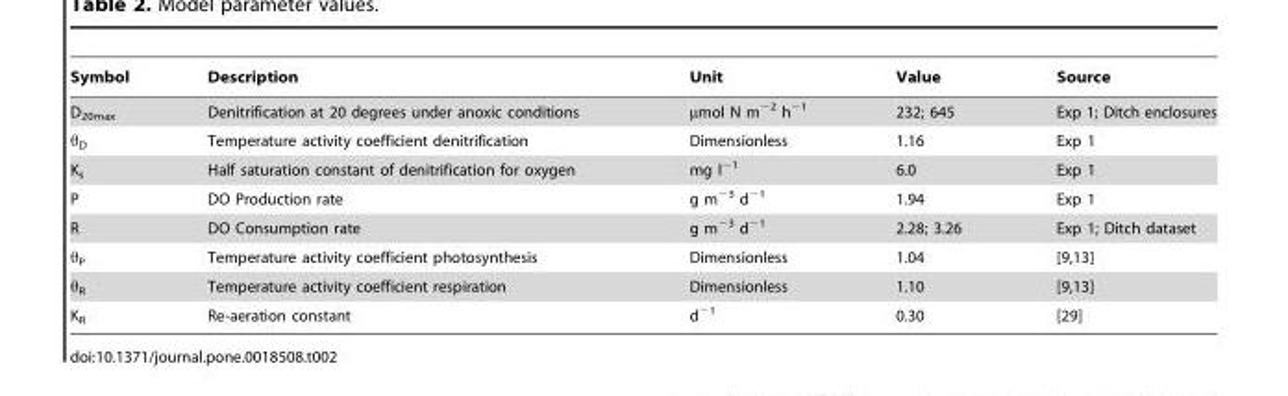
<table><thead><tr><td>Symbol</td><td>Description</td><td>Unit</td><td>Value</td><td>Source</td></tr></thead><tbody><tr><td>D<sub>20max</sub></td><td>Denitrification at 20 degrees under anoxic conditions</td><td>µmol N m<sup>−2</sup> h<sup>−1</sup></td><td>232; 645</td><td>Exp 1; Ditch enclosures</td></tr><tr><td>θ<sub>D</sub></td><td>Temperature activity coefficient denitrification</td><td>Dimensionless</td><td>1.16</td><td>Exp 1</td></tr><tr><td>K<sub>s</sub></td><td>Half saturation constant of denitrification for oxygen</td><td>mg l<sup>−1</sup></td><td>6.0</td><td>Exp 1</td></tr><tr><td>P</td><td>DO Production rate</td><td>g m<sup>−3</sup> d<sup>−1</sup></td><td>1.94</td><td>Exp 1</td></tr><tr><td>R</td><td>DO Consumption rate</td><td>g m<sup>−3</sup> d<sup>−1</sup></td><td>2.28; 3.26</td><td>Exp 1; Ditch dataset</td></tr><tr><td>θ<sub>P</sub></td><td>Temperature activity coefficient photosynthesis</td><td>Dimensionless</td><td>1.04</td><td>[9,13]</td></tr><tr><td>θ<sub>R</sub></td><td>Temperature activity coefficient respiration</td><td>Dimensionless</td><td>1.10</td><td>[9,13]</td></tr><tr><td>K<sub>R</sub></td><td>Re-aeration constant</td><td>d<sup>−1</sup></td><td>0.30</td><td>[29]</td></tr></tbody></table>